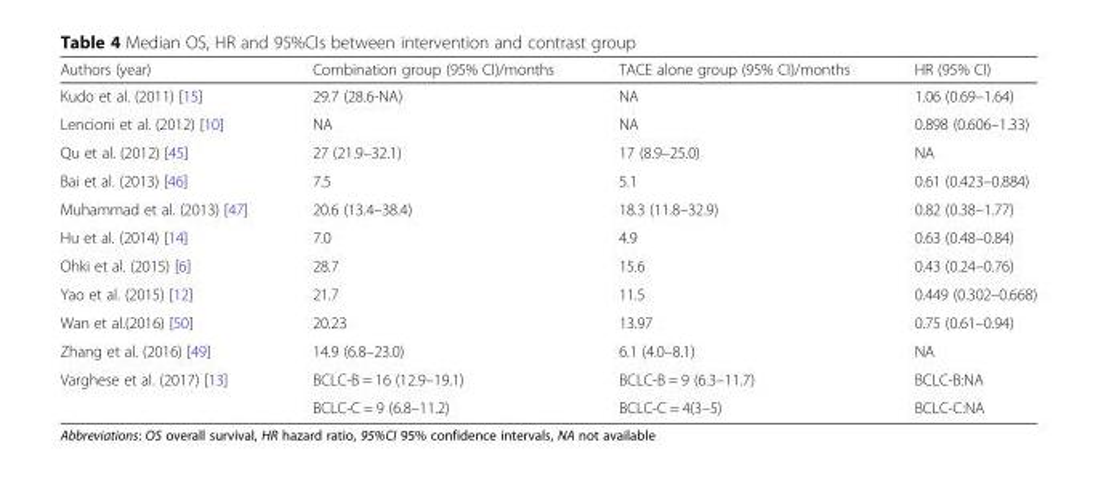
<table><thead><tr><td>Authors (year)</td><td>Combination group (95% CI)/months</td><td>TACE alone group (95% CI)/months</td><td>HR (95% CI)</td></tr></thead><tbody><tr><td>Kudo et al. (2011) [15]</td><td>29.7 (28.6-NA)</td><td>NA</td><td>1.06 (0.69–1.64)</td></tr><tr><td>Lencioni et al. (2012) [10]</td><td>NA</td><td>NA</td><td>0.898 (0.606–1.33)</td></tr><tr><td>Qu et al. (2012) [45]</td><td>27 (21.9–32.1)</td><td>17 (8.9–25.0)</td><td>NA</td></tr><tr><td>Bai et al. (2013) [46]</td><td>7.5</td><td>5.1</td><td>0.61 (0.423–0.884)</td></tr><tr><td>Muhammad et al. (2013) [47]</td><td>20.6 (13.4–38.4)</td><td>18.3 (11.8–32.9)</td><td>0.82 (0.38–1.77)</td></tr><tr><td>Hu et al. (2014) [14]</td><td>7.0</td><td>4.9</td><td>0.63 (0.48–0.84)</td></tr><tr><td>Ohki et al. (2015) [6]</td><td>28.7</td><td>15.6</td><td>0.43 (0.24–0.76)</td></tr><tr><td>Yao et al. (2015) [12]</td><td>21.7</td><td>11.5</td><td>0.449 (0.302–0.668)</td></tr><tr><td>Wan et al.(2016) [50]</td><td>20.23</td><td>13.97</td><td>0.75 (0.61–0.94)</td></tr><tr><td>Zhang et al. (2016) [49]</td><td>14.9 (6.8–23.0)</td><td>6.1 (4.0–8.1)</td><td>NA</td></tr><tr><td rowspan="2">Varghese et al. (2017) [13]</td><td>BCLC-B = 16 (12.9–19.1)</td><td>BCLC-B = 9 (6.3–11.7)</td><td>BCLC-B:NA</td></tr><tr><td>BCLC-C = 9 (6.8–11.2)</td><td>BCLC-C = 4(3–5)</td><td>BCLC-C:NA</td></tr></tbody></table>